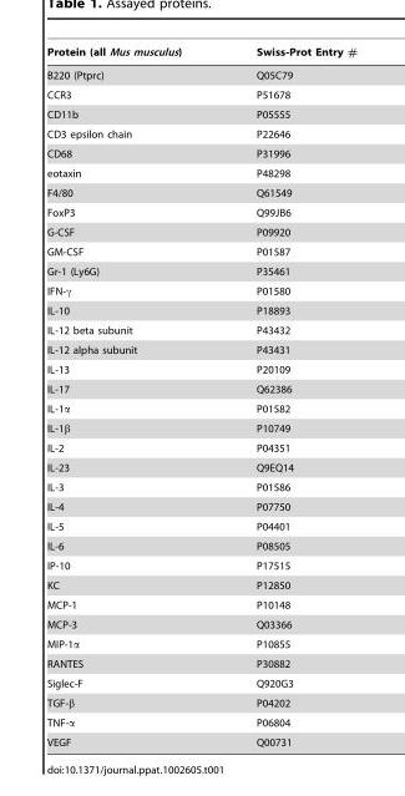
<table><thead><tr><td>Protein (all Mus musculus)</td><td>Swiss-Prot Entry #</td></tr></thead><tbody><tr><td>B220 (Ptprc)</td><td>Q05C79</td></tr><tr><td>CCR3</td><td>P51678</td></tr><tr><td>CD11b</td><td>P05555</td></tr><tr><td>CD3 epsilon chain</td><td>P22646</td></tr><tr><td>CD68</td><td>P31996</td></tr><tr><td>eotaxin</td><td>P48298</td></tr><tr><td>F4/80</td><td>Q61549</td></tr><tr><td>FoxP3</td><td>Q99JB6</td></tr><tr><td>G-CSF</td><td>P09920</td></tr><tr><td>GM-CSF</td><td>P01587</td></tr><tr><td>Gr-1 (Ly6G)</td><td>P35461</td></tr><tr><td>IFN-γ</td><td>P01580</td></tr><tr><td>IL-10</td><td>P18893</td></tr><tr><td>IL-12 beta subunit</td><td>P43432</td></tr><tr><td>IL-12 alpha subunit</td><td>P43431</td></tr><tr><td>IL-13</td><td>P20109</td></tr><tr><td>IL-17</td><td>Q62386</td></tr><tr><td>IL-1α</td><td>P01582</td></tr><tr><td>IL-1β</td><td>P10749</td></tr><tr><td>IL-2</td><td>P04351</td></tr><tr><td>IL-23</td><td>Q9EQ14</td></tr><tr><td>IL-3</td><td>P01586</td></tr><tr><td>IL-4</td><td>P07750</td></tr><tr><td>IL-5</td><td>P04401</td></tr><tr><td>IL-6</td><td>P08505</td></tr><tr><td>IP-10</td><td>P17515</td></tr><tr><td>KC</td><td>P12850</td></tr><tr><td>MCP-1</td><td>P10148</td></tr><tr><td>MCP-3</td><td>Q03366</td></tr><tr><td>MIP-1α</td><td>P10855</td></tr><tr><td>RANTES</td><td>P30882</td></tr><tr><td>Siglec-F</td><td>Q920G3</td></tr><tr><td>TGF-β</td><td>P04202</td></tr><tr><td>TNF-α</td><td>P06804</td></tr><tr><td>VEGF</td><td>Q00731</td></tr></tbody></table>